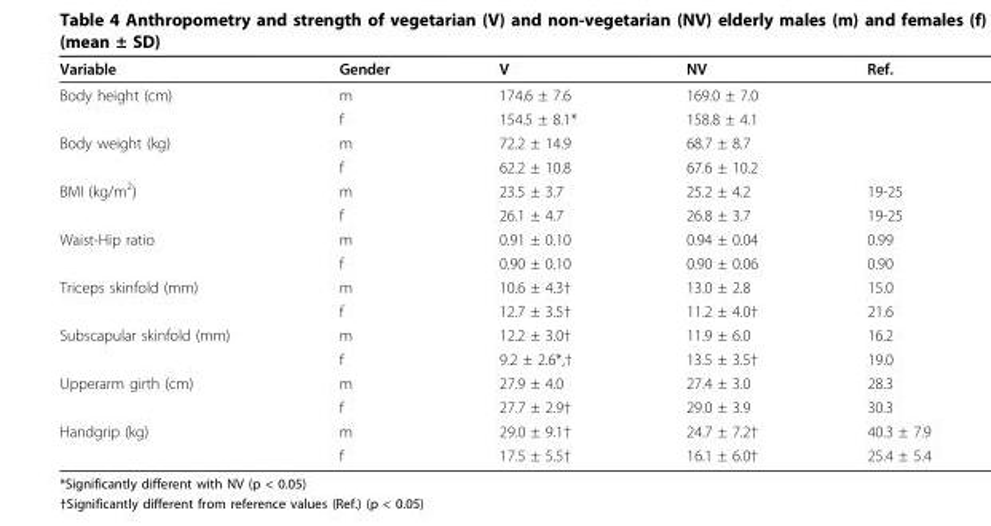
<table><thead><tr><td>Variable</td><td>Gender</td><td>V</td><td>NV</td><td>Ref.</td></tr></thead><tbody><tr><td rowspan="2">Body height (cm)</td><td>m</td><td>174.6 ± 7.6</td><td>169.0 ± 7.0</td><td></td></tr><tr><td>f</td><td>154.5 ± 8.1*</td><td>158.8 ± 4.1</td><td></td></tr><tr><td rowspan="2">Body weight (kg)</td><td>m</td><td>72.2 ± 14.9</td><td>68.7 ± 8.7</td><td></td></tr><tr><td>f</td><td>62.2 ± 10.8</td><td>67.6 ± 10.2</td><td></td></tr><tr><td rowspan="2">BMI (kg/m<sup>2</sup>)</td><td>m</td><td>23.5 ± 3.7</td><td>25.2 ± 4.2</td><td>19-25</td></tr><tr><td>f</td><td>26.1 ± 4.7</td><td>26.8 ± 3.7</td><td>19-25</td></tr><tr><td rowspan="2">Waist-Hip ratio</td><td>m</td><td>0.91 ± 0.10</td><td>0.94 ± 0.04</td><td>0.99</td></tr><tr><td>f</td><td>0.90 ± 0.10</td><td>0.90 ± 0.06</td><td>0.90</td></tr><tr><td rowspan="2">Triceps skinfold (mm)</td><td>m</td><td>10.6 ± 4.3†</td><td>13.0 ± 2.8</td><td>15.0</td></tr><tr><td>f</td><td>12.7 ± 3.5†</td><td>11.2 ± 4.0†</td><td>21.6</td></tr><tr><td rowspan="2">Subscapular skinfold (mm)</td><td>m</td><td>12.2 ± 3.0†</td><td>11.9 ± 6.0</td><td>16.2</td></tr><tr><td>f</td><td>9.2 ± 2.6*,†</td><td>13.5 ± 3.5†</td><td>19.0</td></tr><tr><td rowspan="2">Upperarm girth (cm)</td><td>m</td><td>27.9 ± 4.0</td><td>27.4 ± 3.0</td><td>28.3</td></tr><tr><td>f</td><td>27.7 ± 2.9†</td><td>29.0 ± 3.9</td><td>30.3</td></tr><tr><td rowspan="2">Handgrip (kg)</td><td>m</td><td>29.0 ± 9.1†</td><td>24.7 ± 7.2†</td><td>40.3 ± 7.9</td></tr><tr><td>f</td><td>17.5 ± 5.5†</td><td>16.1 ± 6.0†</td><td>25.4 ± 5.4</td></tr></tbody></table>